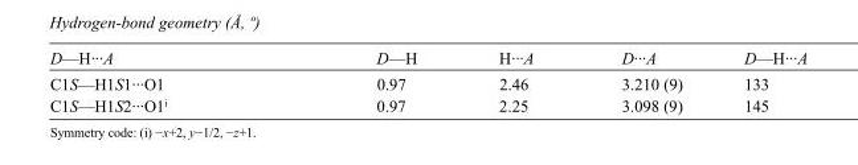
<table><tbody><tr><td>D—H···A</td><td>D—H</td><td>H···A</td><td>D···A</td><td>D—H···A</td></tr><tr><td>C1S—H1S1···O1</td><td>0.97</td><td>2.46</td><td>3.210 (9)</td><td>133</td></tr><tr><td>C1S—H1S2···O1<sup>i</sup></td><td>0.97</td><td>2.25</td><td>3.098 (9)</td><td>145</td></tr></tbody></table>